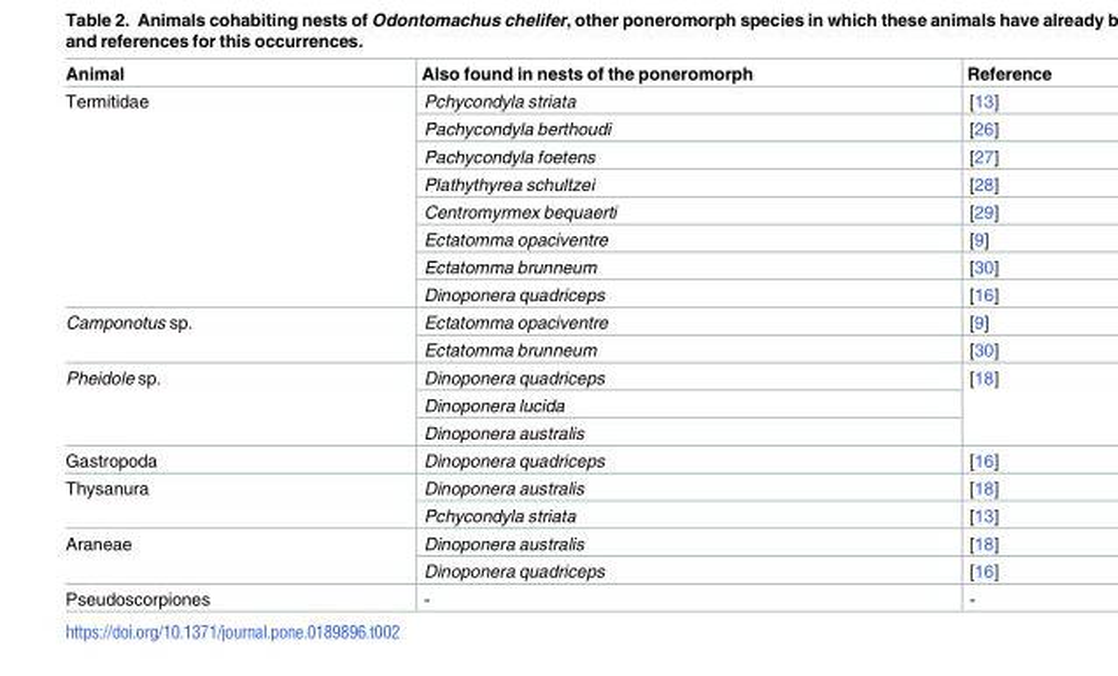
<table><thead><tr><td>Animal</td><td>Also found in nests of the poneromorph</td><td>Reference</td></tr></thead><tbody><tr><td rowspan="8">Termitidae</td><td>Pchycondyla striata</td><td>[13]</td></tr><tr><td>Pachycondyla berthoudi</td><td>[26]</td></tr><tr><td>Pachycondyla foetens</td><td>[27]</td></tr><tr><td>Plathythyrea schultzei</td><td>[28]</td></tr><tr><td>Centromyrmex bequaerti</td><td>[29]</td></tr><tr><td>Ectatomma opaciventre</td><td>[9]</td></tr><tr><td>Ectatomma brunneum</td><td>[30]</td></tr><tr><td>Dinoponera quadriceps</td><td>[16]</td></tr><tr><td rowspan="2">Camponotus sp.</td><td>Ectatomma opaciventre</td><td>[9]</td></tr><tr><td>Ectatomma brunneum</td><td>[30]</td></tr><tr><td rowspan="3">Pheidole sp.</td><td>Dinoponera quadriceps</td><td rowspan="3">[18]</td></tr><tr><td>Dinoponera lucida</td></tr><tr><td>Dinoponera australis</td></tr><tr><td>Gastropoda</td><td>Dinoponera quadriceps</td><td>[16]</td></tr><tr><td rowspan="2">Thysanura</td><td>Dinoponera australis</td><td>[18]</td></tr><tr><td>Pchycondyla striata</td><td>[13]</td></tr><tr><td rowspan="2">Araneae</td><td>Dinoponera australis</td><td>[18]</td></tr><tr><td>Dinoponera quadriceps</td><td>[16]</td></tr><tr><td>Pseudoscorpiones</td><td>-</td><td>-</td></tr></tbody></table>